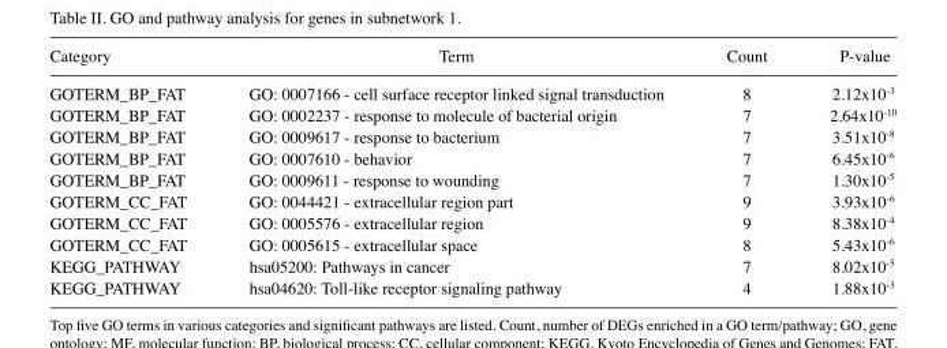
<table><thead><tr><td>Category</td><td>Term</td><td>Count</td><td>P-value</td></tr></thead><tbody><tr><td>GOTERM_BP_FAT</td><td>GO: 0007166 ‑ cell surface receptor linked signal transduction</td><td>8</td><td>2.12x10-3</td></tr><tr><td>GOTERM_BP_FAT</td><td>GO: 0002237 ‑ response to molecule of bacterial origin</td><td>7</td><td>2.64x10-10</td></tr><tr><td>GOTERM_BP_FAT</td><td>GO: 0009617 ‑ response to bacterium</td><td>7</td><td>3.51x10-8</td></tr><tr><td>GOTERM_BP_FAT</td><td>GO: 0007610 ‑ behavior</td><td>7</td><td>6.45x10-6</td></tr><tr><td>GOTERM_BP_FAT</td><td>GO: 0009611 ‑ response to wounding</td><td>7</td><td>1.30x10-5</td></tr><tr><td>GOTERM_CC_FAT</td><td>GO: 0044421 ‑ extracellular region part</td><td>9</td><td>3.93x10-6</td></tr><tr><td>GOTERM_CC_FAT</td><td>GO: 0005576 ‑ extracellular region</td><td>9</td><td>8.38x10-4</td></tr><tr><td>GOTERM_CC_FAT</td><td>GO: 0005615 ‑ extracellular space</td><td>8</td><td>5.43x10-6</td></tr><tr><td>KEGG_PATHWAY</td><td>hsa05200: Pathways in cancer</td><td>7</td><td>8.02x10-5</td></tr><tr><td>KEGG_PATHWAY</td><td>hsa04620: Toll-like receptor signaling pathway</td><td>4</td><td>1.88x10-3</td></tr></tbody></table>